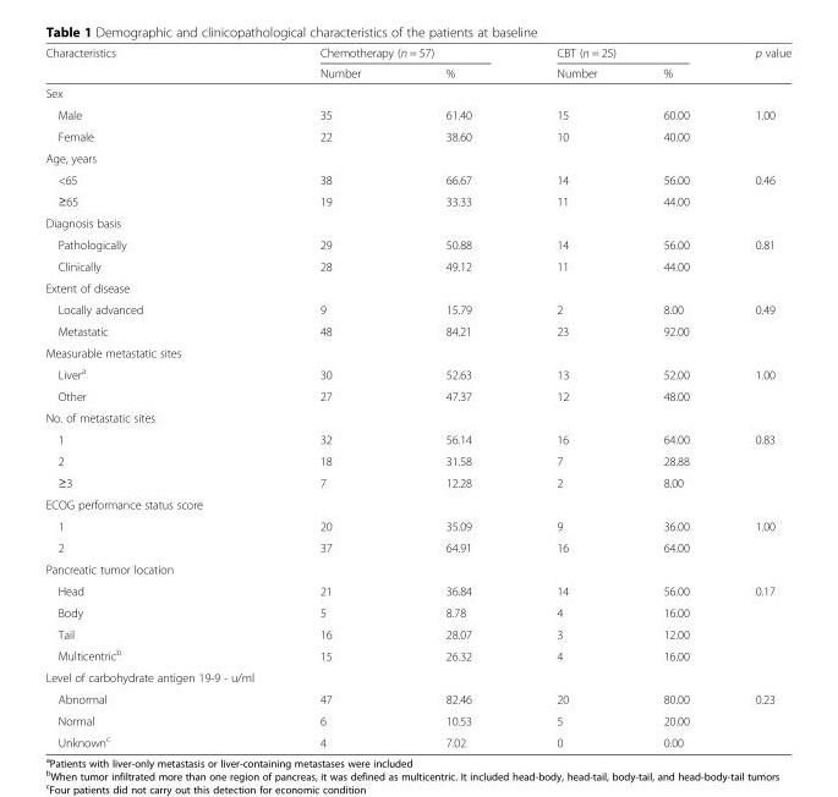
<table><thead><tr><td rowspan="2">Characteristics</td><td colspan="2">Chemotherapy (n = 57)</td><td colspan="2">CBT (n = 25)</td><td rowspan="2">p value</td></tr><tr><td>Number</td><td>%</td><td>Number</td><td>%</td></tr></thead><tbody><tr><td colspan="6">Sex</td></tr><tr><td>Male</td><td>35</td><td>61.40</td><td>15</td><td>60.00</td><td rowspan="2">1.00</td></tr><tr><td>Female</td><td>22</td><td>38.60</td><td>10</td><td>40.00</td></tr><tr><td colspan="6">Age, years</td></tr><tr><td>&lt;65</td><td>38</td><td>66.67</td><td>14</td><td>56.00</td><td rowspan="2">0.46</td></tr><tr><td>≥65</td><td>19</td><td>33.33</td><td>11</td><td>44.00</td></tr><tr><td colspan="6">Diagnosis basis</td></tr><tr><td>Pathologically</td><td>29</td><td>50.88</td><td>14</td><td>56.00</td><td rowspan="2">0.81</td></tr><tr><td>Clinically</td><td>28</td><td>49.12</td><td>11</td><td>44.00</td></tr><tr><td colspan="6">Extent of disease</td></tr><tr><td>Locally advanced</td><td>9</td><td>15.79</td><td>2</td><td>8.00</td><td rowspan="2">0.49</td></tr><tr><td>Metastatic</td><td>48</td><td>84.21</td><td>23</td><td>92.00</td></tr><tr><td colspan="6">Measurable metastatic sites</td></tr><tr><td>Liver<sup>a</sup></td><td>30</td><td>52.63</td><td>13</td><td>52.00</td><td rowspan="2">1.00</td></tr><tr><td>Other</td><td>27</td><td>47.37</td><td>12</td><td>48.00</td></tr><tr><td colspan="6">No. of metastatic sites</td></tr><tr><td>1</td><td>32</td><td>56.14</td><td>16</td><td>64.00</td><td rowspan="3">0.83</td></tr><tr><td>2</td><td>18</td><td>31.58</td><td>7</td><td>28.88</td></tr><tr><td>≥3</td><td>7</td><td>12.28</td><td>2</td><td>8.00</td></tr><tr><td colspan="6">ECOG performance status score</td></tr><tr><td>1</td><td>20</td><td>35.09</td><td>9</td><td>36.00</td><td rowspan="2">1.00</td></tr><tr><td>2</td><td>37</td><td>64.91</td><td>16</td><td>64.00</td></tr><tr><td colspan="6">Pancreatic tumor location</td></tr><tr><td>Head</td><td>21</td><td>36.84</td><td>14</td><td>56.00</td><td rowspan="4">0.17</td></tr><tr><td>Body</td><td>5</td><td>8.78</td><td>4</td><td>16.00</td></tr><tr><td>Tail</td><td>16</td><td>28.07</td><td>3</td><td>12.00</td></tr><tr><td>Multicentric<sup>b</sup></td><td>15</td><td>26.32</td><td>4</td><td>16.00</td></tr><tr><td colspan="6">Level of carbohydrate antigen 19-9 - u/ml</td></tr><tr><td>Abnormal</td><td>47</td><td>82.46</td><td>20</td><td>80.00</td><td rowspan="3">0.23</td></tr><tr><td>Normal</td><td>6</td><td>10.53</td><td>5</td><td>20.00</td></tr><tr><td>Unknown<sup>c</sup></td><td>4</td><td>7.02</td><td>0</td><td>0.00</td></tr></tbody></table>